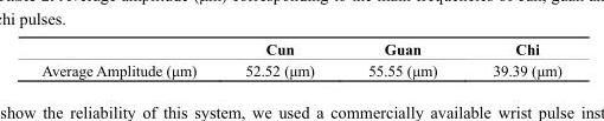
<table><thead><tr><td></td><td>Cun</td><td>Guan</td><td>Chi</td></tr></thead><tbody><tr><td>Average Amplitude (μm)</td><td>52.52 (μm)</td><td>55.55 (μm)</td><td>39.39 (μm)</td></tr></tbody></table>